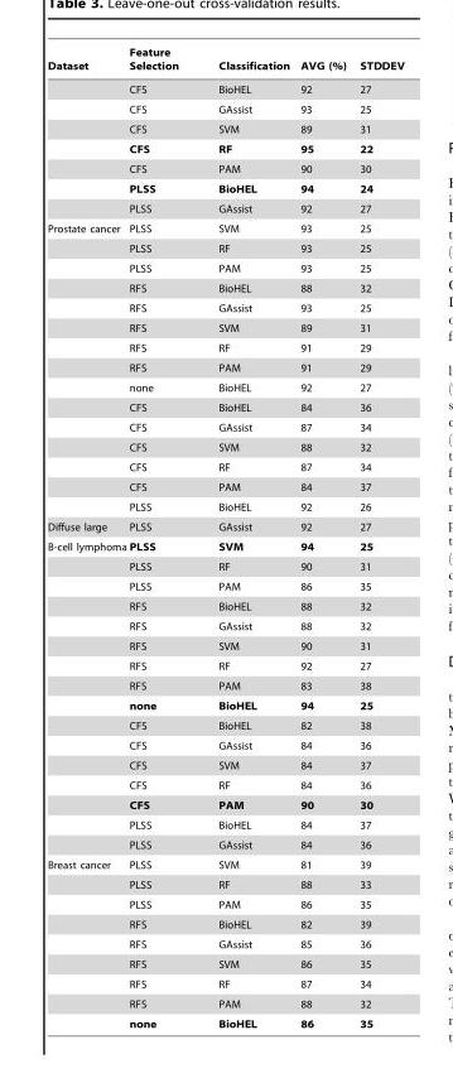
<table><thead><tr><td>Dataset</td><td>Feature Selection</td><td>Classification</td><td>AVG (%)</td><td>STDDEV</td></tr></thead><tbody><tr><td></td><td>CFS</td><td>BioHEL</td><td>92</td><td>27</td></tr><tr><td></td><td>CFS</td><td>GAssist</td><td>93</td><td>25</td></tr><tr><td></td><td>CFS</td><td>SVM</td><td>89</td><td>31</td></tr><tr><td></td><td>CFS</td><td>RF</td><td>95</td><td>22</td></tr><tr><td></td><td>CFS</td><td>PAM</td><td>90</td><td>30</td></tr><tr><td></td><td>PLSS</td><td>BioHEL</td><td>94</td><td>24</td></tr><tr><td></td><td>PLSS</td><td>GAssist</td><td>92</td><td>27</td></tr><tr><td rowspan="15">Prostate cancer</td><td>PLSS</td><td>SVM</td><td>93</td><td>25</td></tr><tr><td>PLSS</td><td>RF</td><td>93</td><td>25</td></tr><tr><td>PLSS</td><td>PAM</td><td>93</td><td>25</td></tr><tr><td>RFS</td><td>BioHEL</td><td>88</td><td>32</td></tr><tr><td>RFS</td><td>GAssist</td><td>93</td><td>25</td></tr><tr><td>RFS</td><td>SVM</td><td>89</td><td>31</td></tr><tr><td>RFS</td><td>RF</td><td>91</td><td>29</td></tr><tr><td>RFS</td><td>PAM</td><td>91</td><td>29</td></tr><tr><td>none</td><td>BioHEL</td><td>92</td><td>27</td></tr><tr><td>CFS</td><td>BioHEL</td><td>84</td><td>36</td></tr><tr><td>CFS</td><td>GAssist</td><td>87</td><td>34</td></tr><tr><td>CFS</td><td>SVM</td><td>88</td><td>32</td></tr><tr><td>CFS</td><td>RF</td><td>87</td><td>34</td></tr><tr><td>CFS</td><td>PAM</td><td>84</td><td>37</td></tr><tr><td>PLSS</td><td>BioHEL</td><td>92</td><td>26</td></tr><tr><td>Diffuse large</td><td>PLSS</td><td>GAssist</td><td>92</td><td>27</td></tr><tr><td rowspan="16">B-cell lymphoma</td><td>PLSS</td><td>SVM</td><td>94</td><td>25</td></tr><tr><td>PLSS</td><td>RF</td><td>90</td><td>31</td></tr><tr><td>PLSS</td><td>PAM</td><td>86</td><td>35</td></tr><tr><td>RFS</td><td>BioHEL</td><td>88</td><td>32</td></tr><tr><td>RFS</td><td>GAssist</td><td>88</td><td>32</td></tr><tr><td>RFS</td><td>SVM</td><td>90</td><td>31</td></tr><tr><td>RFS</td><td>RF</td><td>92</td><td>27</td></tr><tr><td>RFS</td><td>PAM</td><td>83</td><td>38</td></tr><tr><td>none</td><td>BioHEL</td><td>94</td><td>25</td></tr><tr><td>CFS</td><td>BioHEL</td><td>82</td><td>38</td></tr><tr><td>CFS</td><td>GAssist</td><td>84</td><td>36</td></tr><tr><td>CFS</td><td>SVM</td><td>84</td><td>37</td></tr><tr><td>CFS</td><td>RF</td><td>84</td><td>36</td></tr><tr><td>CFS</td><td>PAM</td><td>90</td><td>30</td></tr><tr><td>PLSS</td><td>BioHEL</td><td>84</td><td>37</td></tr><tr><td>PLSS</td><td>GAssist</td><td>84</td><td>36</td></tr><tr><td rowspan="9">Breast cancer</td><td>PLSS</td><td>SVM</td><td>81</td><td>39</td></tr><tr><td>PLSS</td><td>RF</td><td>88</td><td>33</td></tr><tr><td>PLSS</td><td>PAM</td><td>86</td><td>35</td></tr><tr><td>RFS</td><td>BioHEL</td><td>82</td><td>39</td></tr><tr><td>RFS</td><td>GAssist</td><td>85</td><td>36</td></tr><tr><td>RFS</td><td>SVM</td><td>86</td><td>35</td></tr><tr><td>RFS</td><td>RF</td><td>87</td><td>34</td></tr><tr><td>RFS</td><td>PAM</td><td>88</td><td>32</td></tr><tr><td>none</td><td>BioHEL</td><td>86</td><td>35</td></tr></tbody></table>